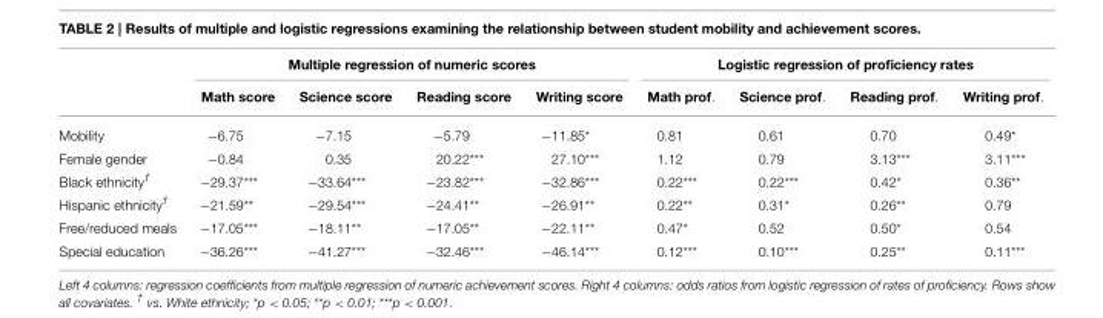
<table><thead><tr><td rowspan="2"></td><td colspan="4">Multiple regression of numeric scores</td><td colspan="4">Logistic regression of proficiency rates</td></tr><tr><td>Math score</td><td>Science score</td><td>Reading score</td><td>Writing score</td><td>Math prof.</td><td>Science prof.</td><td>Reading prof.</td><td>Writing prof.</td></tr></thead><tbody><tr><td>Mobility</td><td>−6.75</td><td>−7.15</td><td>−5.79</td><td>−11.85*</td><td>0.81</td><td>0.61</td><td>0.70</td><td>0.49*</td></tr><tr><td>Female gender</td><td>−0.84</td><td>0.35</td><td>20.22***</td><td>27.10***</td><td>1.12</td><td>0.79</td><td>3.13***</td><td>3.11***</td></tr><tr><td>Black ethnicity<sup>†</sup></td><td>−29.37***</td><td>−33.64***</td><td>−23.82***</td><td>−32.86***</td><td>0.22***</td><td>0.22***</td><td>0.42*</td><td>0.36**</td></tr><tr><td>Hispanic ethnicity<sup>†</sup></td><td>−21.59**</td><td>−29.54***</td><td>−24.41**</td><td>−26.91**</td><td>0.22**</td><td>0.31*</td><td>0.26**</td><td>0.79</td></tr><tr><td>Free/reduced meals</td><td>−17.05***</td><td>−18.11**</td><td>−17.05**</td><td>−22.11**</td><td>0.47*</td><td>0.52</td><td>0.50*</td><td>0.54</td></tr><tr><td>Special education</td><td>−36.26***</td><td>−41.27***</td><td>−32.46***</td><td>−46.14***</td><td>0.12***</td><td>0.10***</td><td>0.25**</td><td>0.11***</td></tr></tbody></table>